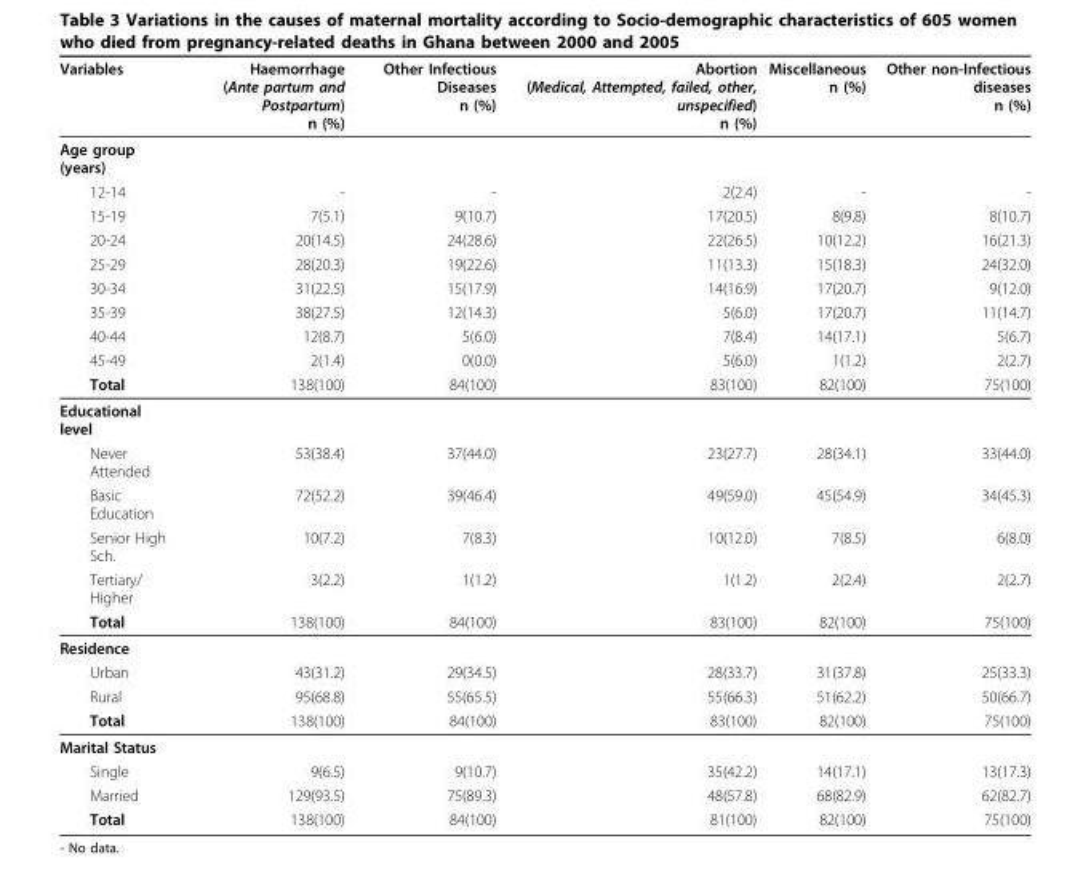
<table><thead><tr><td>Variables</td><td>Haemorrhage (Ante partum and Postpartum) n (%)</td><td>Other Infectious Diseases n (%)</td><td>Abortion (Medical, Attempted, failed, other, unspecified) n (%)</td><td>Miscellaneous n (%)</td><td>Other non-Infectious diseases n (%)</td></tr></thead><tbody><tr><td colspan="6">Age group (years)</td></tr><tr><td>12-14</td><td>-</td><td>-</td><td>2(2.4)</td><td>-</td><td>-</td></tr><tr><td>15-19</td><td>7(5.1)</td><td>9(10.7)</td><td>17(20.5)</td><td>8(9.8)</td><td>8(10.7)</td></tr><tr><td>20-24</td><td>20(14.5)</td><td>24(28.6)</td><td>22(26.5)</td><td>10(12.2)</td><td>16(21.3)</td></tr><tr><td>25-29</td><td>28(20.3)</td><td>19(22.6)</td><td>11(13.3)</td><td>15(18.3)</td><td>24(32.0)</td></tr><tr><td>30-34</td><td>31(22.5)</td><td>15(17.9)</td><td>14(16.9)</td><td>17(20.7)</td><td>9(12.0)</td></tr><tr><td>35-39</td><td>38(27.5)</td><td>12(14.3)</td><td>5(6.0)</td><td>17(20.7)</td><td>11(14.7)</td></tr><tr><td>40-44</td><td>12(8.7)</td><td>5(6.0)</td><td>7(8.4)</td><td>14(17.1)</td><td>5(6.7)</td></tr><tr><td>45-49</td><td>2(1.4)</td><td>0(0.0)</td><td>5(6.0)</td><td>1(1.2)</td><td>2(2.7)</td></tr><tr><td>Total</td><td>138(100)</td><td>84(100)</td><td>83(100)</td><td>82(100)</td><td>75(100)</td></tr><tr><td colspan="6">Educational level</td></tr><tr><td>Never Attended</td><td>53(38.4)</td><td>37(44.0)</td><td>23(27.7)</td><td>28(34.1)</td><td>33(44.0)</td></tr><tr><td>Basic Education</td><td>72(52.2)</td><td>39(46.4)</td><td>49(59.0)</td><td>45(54.9)</td><td>34(45.3)</td></tr><tr><td>Senior High Sch.</td><td>10(7.2)</td><td>7(8.3)</td><td>10(12.0)</td><td>7(8.5)</td><td>6(8.0)</td></tr><tr><td>Tertiary/ Higher</td><td>3(2.2)</td><td>1(1.2)</td><td>1(1.2)</td><td>2(2.4)</td><td>2(2.7)</td></tr><tr><td>Total</td><td>138(100)</td><td>84(100)</td><td>83(100)</td><td>82(100)</td><td>75(100)</td></tr><tr><td colspan="6">Residence</td></tr><tr><td>Urban</td><td>43(31.2)</td><td>29(34.5)</td><td>28(33.7)</td><td>31(37.8)</td><td>25(33.3)</td></tr><tr><td>Rural</td><td>95(68.8)</td><td>55(65.5)</td><td>55(66.3)</td><td>51(62.2)</td><td>50(66.7)</td></tr><tr><td>Total</td><td>138(100)</td><td>84(100)</td><td>83(100)</td><td>82(100)</td><td>75(100)</td></tr><tr><td colspan="6">Marital Status</td></tr><tr><td>Single</td><td>9(6.5)</td><td>9(10.7)</td><td>35(42.2)</td><td>14(17.1)</td><td>13(17.3)</td></tr><tr><td>Married</td><td>129(93.5)</td><td>75(89.3)</td><td>48(57.8)</td><td>68(82.9)</td><td>62(82.7)</td></tr><tr><td>Total</td><td>138(100)</td><td>84(100)</td><td>81(100)</td><td>82(100)</td><td>75(100)</td></tr></tbody></table>